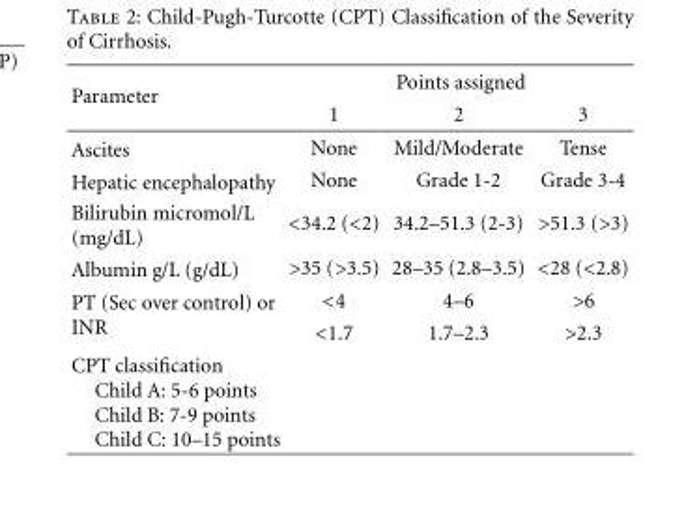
<table><thead><tr><td rowspan="2">Parameter</td><td colspan="3">Points assigned</td></tr><tr><td>1</td><td>2</td><td>3</td></tr></thead><tbody><tr><td>Ascites</td><td>None</td><td>Mild/Moderate</td><td>Tense</td></tr><tr><td>Hepatic encephalopathy</td><td>None</td><td>Grade 1-2</td><td>Grade 3-4</td></tr><tr><td>Bilirubin micromol/L (mg/dL)</td><td>&lt;34.2 (&lt;2)</td><td>34.2–51.3 (2-3)</td><td>&gt;51.3 (&gt;3)</td></tr><tr><td>Albumin g/L (g/dL)</td><td>&gt;35 (&gt;3.5)</td><td>28–35 (2.8–3.5)</td><td>&lt;28 (&lt;2.8)</td></tr><tr><td rowspan="2">PT (Sec over control) or INR</td><td>&lt;4</td><td>4–6</td><td>&gt;6</td></tr><tr><td>&lt;1.7</td><td>1.7–2.3</td><td>&gt;2.3</td></tr><tr><td>CPT classification Child A: 5-6 points Child B: 7-9 points Child C: 10–15 points</td><td></td><td></td><td></td></tr></tbody></table>